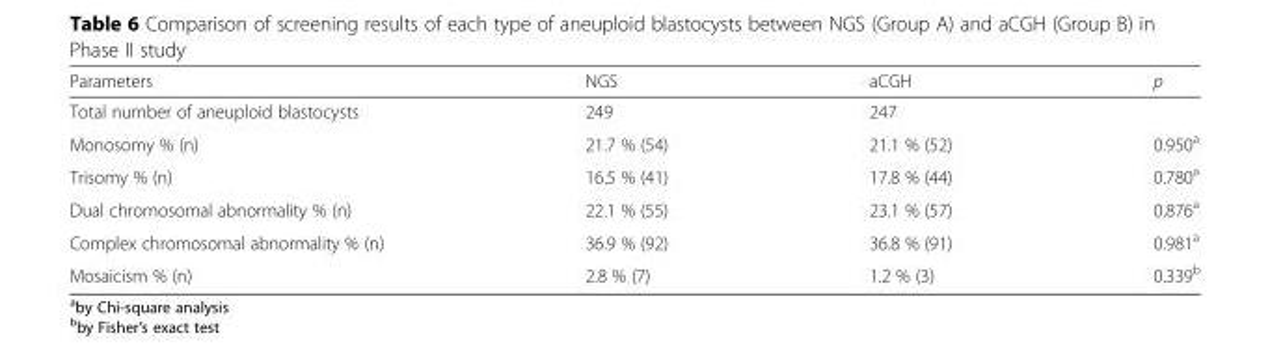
<table><thead><tr><td>Parameters</td><td>NGS</td><td>aCGH</td><td>p</td></tr></thead><tbody><tr><td>Total number of aneuploid blastocysts</td><td>249</td><td>247</td><td></td></tr><tr><td>Monosomy % (n)</td><td>21.7 % (54)</td><td>21.1 % (52)</td><td>0.950<sup>a</sup></td></tr><tr><td>Trisomy % (n)</td><td>16.5 % (41)</td><td>17.8 % (44)</td><td>0.780<sup>a</sup></td></tr><tr><td>Dual chromosomal abnormality % (n)</td><td>22.1 % (55)</td><td>23.1 % (57)</td><td>0.876<sup>a</sup></td></tr><tr><td>Complex chromosomal abnormality % (n)</td><td>36.9 % (92)</td><td>36.8 % (91)</td><td>0.981<sup>a</sup></td></tr><tr><td>Mosaicism % (n)</td><td>2.8 % (7)</td><td>1.2 % (3)</td><td>0.339<sup>b</sup></td></tr></tbody></table>